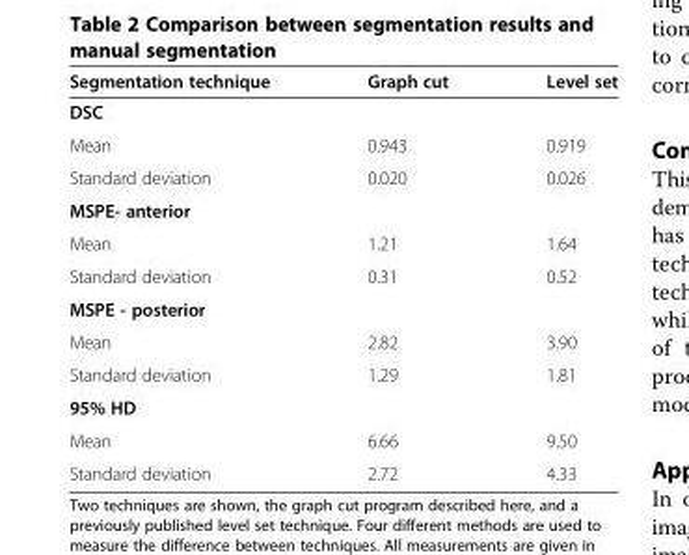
<table><thead><tr><td>Segmentation technique</td><td>Graph cut</td><td>Level set</td></tr></thead><tbody><tr><td colspan="3">DSC</td></tr><tr><td>Mean</td><td>0.943</td><td>0.919</td></tr><tr><td>Standard deviation</td><td>0.020</td><td>0.026</td></tr><tr><td colspan="3">MSPE- anterior</td></tr><tr><td>Mean</td><td>1.21</td><td>1.64</td></tr><tr><td>Standard deviation</td><td>0.31</td><td>0.52</td></tr><tr><td colspan="3">MSPE - posterior</td></tr><tr><td>Mean</td><td>2.82</td><td>3.90</td></tr><tr><td>Standard deviation</td><td>1.29</td><td>1.81</td></tr><tr><td colspan="3">95% HD</td></tr><tr><td>Mean</td><td>6.66</td><td>9.50</td></tr><tr><td>Standard deviation</td><td>2.72</td><td>4.33</td></tr></tbody></table>